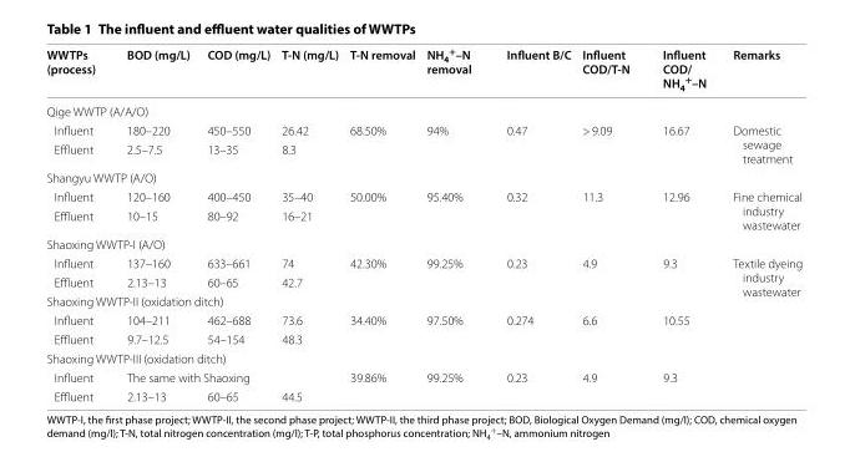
<table><thead><tr><td>WWTPs (process)</td><td>BOD (mg/L)</td><td>COD (mg/L)</td><td>T-N (mg/L)</td><td>T-N removal</td><td>NH<sub>4</sub> <sup>+</sup>–N removal</td><td>Influent B/C</td><td>Influent COD/T-N</td><td>Influent COD/ NH<sub>4</sub> <sup>+</sup>–N</td><td>Remarks</td></tr></thead><tbody><tr><td colspan="10">Qige WWTP (A/A/O)</td></tr><tr><td>Influent</td><td>180–220</td><td>450–550</td><td>26.42</td><td rowspan="2">68.50%</td><td rowspan="2">94%</td><td rowspan="2">0.47</td><td rowspan="2">&gt; 9.09</td><td rowspan="2">16.67</td><td rowspan="2">Domestic sewage treatment</td></tr><tr><td>Effluent</td><td>2.5–7.5</td><td>13–35</td><td>8.3</td></tr><tr><td colspan="10">Shangyu WWTP (A/O)</td></tr><tr><td>Influent</td><td>120–160</td><td>400–450</td><td>35–40</td><td rowspan="2">50.00%</td><td rowspan="2">95.40%</td><td rowspan="2">0.32</td><td rowspan="2">11.3</td><td rowspan="2">12.96</td><td rowspan="2">Fine chemical industry wastewater</td></tr><tr><td>Effluent</td><td>10–15</td><td>80–92</td><td>16–21</td></tr><tr><td colspan="10">Shaoxing WWTP-I (A/O)</td></tr><tr><td>Influent</td><td>137–160</td><td>633–661</td><td>74</td><td rowspan="2">42.30%</td><td rowspan="2">99.25%</td><td rowspan="2">0.23</td><td rowspan="2">4.9</td><td rowspan="2">9.3</td><td rowspan="8">Textile dyeing industry wastewater</td></tr><tr><td>Effluent</td><td>2.13–13</td><td>60–65</td><td>42.7</td></tr><tr><td colspan="9">Shaoxing WWTP-II (oxidation ditch)</td></tr><tr><td>Influent</td><td>104–211</td><td>462–688</td><td>73.6</td><td rowspan="2">34.40%</td><td rowspan="2">97.50%</td><td rowspan="2">0.274</td><td rowspan="2">6.6</td><td rowspan="2">10.55</td></tr><tr><td>Effluent</td><td>9.7–12.5</td><td>54–154</td><td>48.3</td></tr><tr><td colspan="9">Shaoxing WWTP-III (oxidation ditch)</td></tr><tr><td>Influent</td><td colspan="3">The same with Shaoxing</td><td rowspan="2">39.86%</td><td rowspan="2">99.25%</td><td rowspan="2">0.23</td><td rowspan="2">4.9</td><td rowspan="2">9.3</td></tr><tr><td>Effluent</td><td>2.13–13</td><td>60–65</td><td>44.5</td></tr></tbody></table>